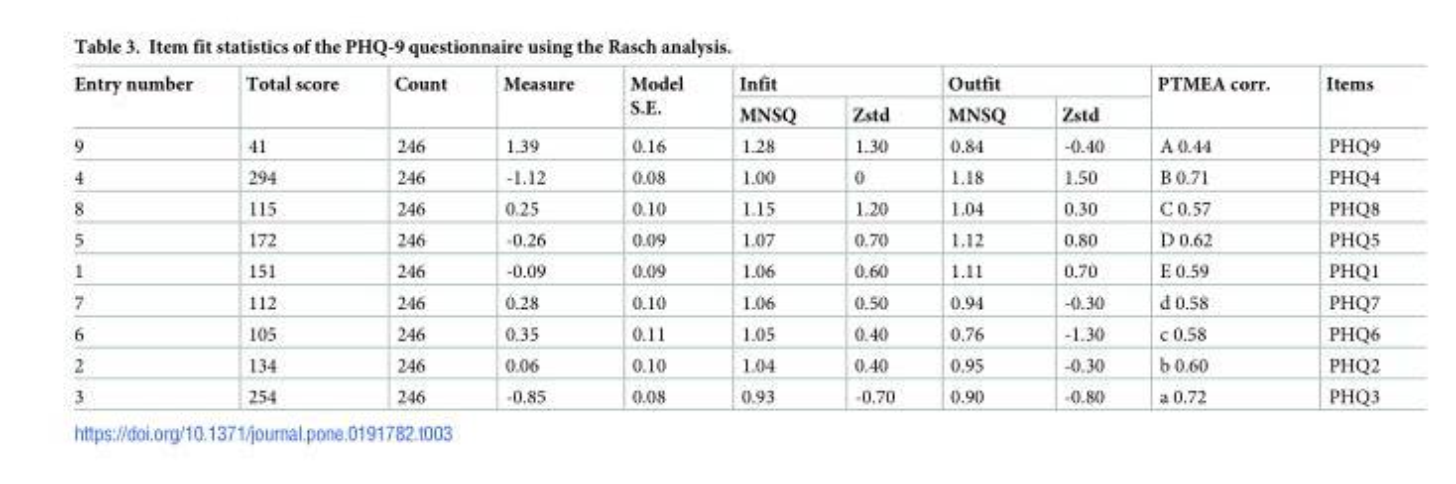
<table><thead><tr><td rowspan="2">Entry number</td><td rowspan="2">Total score</td><td rowspan="2">Count</td><td rowspan="2">Measure</td><td rowspan="2">Model S.E.</td><td colspan="2">Infit</td><td colspan="2">Outfit</td><td rowspan="2">PTMEA corr.</td><td rowspan="2">Items</td></tr><tr><td>MNSQ</td><td>Zstd</td><td>MNSQ</td><td>Zstd</td></tr></thead><tbody><tr><td>9</td><td>41</td><td>246</td><td>1.39</td><td>0.16</td><td>1.28</td><td>1.30</td><td>0.84</td><td>-0.40</td><td>A 0.44</td><td>PHQ9</td></tr><tr><td>4</td><td>294</td><td>246</td><td>-1.12</td><td>0.08</td><td>1.00</td><td>0</td><td>1.18</td><td>1.50</td><td>B 0.71</td><td>PHQ4</td></tr><tr><td>8</td><td>115</td><td>246</td><td>0.25</td><td>0.10</td><td>1.15</td><td>1.20</td><td>1.04</td><td>0.30</td><td>C 0.57</td><td>PHQ8</td></tr><tr><td>5</td><td>172</td><td>246</td><td>-0.26</td><td>0.09</td><td>1.07</td><td>0.70</td><td>1.12</td><td>0.80</td><td>D 0.62</td><td>PHQ5</td></tr><tr><td>1</td><td>151</td><td>246</td><td>-0.09</td><td>0.09</td><td>1.06</td><td>0.60</td><td>1.11</td><td>0.70</td><td>E 0.59</td><td>PHQ1</td></tr><tr><td>7</td><td>112</td><td>246</td><td>0.28</td><td>0.10</td><td>1.06</td><td>0.50</td><td>0.94</td><td>-0.30</td><td>d 0.58</td><td>PHQ7</td></tr><tr><td>6</td><td>105</td><td>246</td><td>0.35</td><td>0.11</td><td>1.05</td><td>0.40</td><td>0.76</td><td>-1.30</td><td>c 0.58</td><td>PHQ6</td></tr><tr><td>2</td><td>134</td><td>246</td><td>0.06</td><td>0.10</td><td>1.04</td><td>0.40</td><td>0.95</td><td>-0.30</td><td>b 0.60</td><td>PHQ2</td></tr><tr><td>3</td><td>254</td><td>246</td><td>-0.85</td><td>0.08</td><td>0.93</td><td>-0.70</td><td>0.90</td><td>-0.80</td><td>a 0.72</td><td>PHQ3</td></tr></tbody></table>